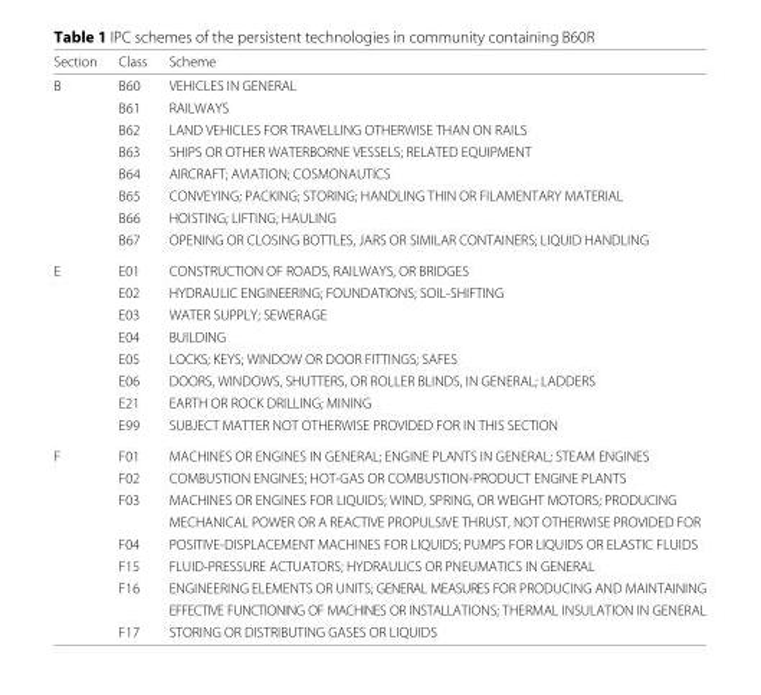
<table><thead><tr><td>Section</td><td>Class</td><td>Scheme</td></tr></thead><tbody><tr><td rowspan="8">B</td><td>B60</td><td>VEHICLES IN GENERAL</td></tr><tr><td>B61</td><td>RAILWAYS</td></tr><tr><td>B62</td><td>LAND VEHICLES FOR TRAVELLING OTHERWISE THAN ON RAILS</td></tr><tr><td>B63</td><td>SHIPS OR OTHER WATERBORNE VESSELS; RELATED EQUIPMENT</td></tr><tr><td>B64</td><td>AIRCRAFT; AVIATION; COSMONAUTICS</td></tr><tr><td>B65</td><td>CONVEYING; PACKING; STORING; HANDLING THIN OR FILAMENTARY MATERIAL</td></tr><tr><td>B66</td><td>HOISTING; LIFTING; HAULING</td></tr><tr><td>B67</td><td>OPENING OR CLOSING BOTTLES, JARS OR SIMILAR CONTAINERS; LIQUID HANDLING</td></tr><tr><td rowspan="8">E</td><td>E01</td><td>CONSTRUCTION OF ROADS, RAILWAYS, OR BRIDGES</td></tr><tr><td>E02</td><td>HYDRAULIC ENGINEERING; FOUNDATIONS; SOIL-SHIFTING</td></tr><tr><td>E03</td><td>WATER SUPPLY; SEWERAGE</td></tr><tr><td>E04</td><td>BUILDING</td></tr><tr><td>E05</td><td>LOCKS; KEYS; WINDOW OR DOOR FITTINGS; SAFES</td></tr><tr><td>E06</td><td>DOORS, WINDOWS, SHUTTERS, OR ROLLER BLINDS, IN GENERAL; LADDERS</td></tr><tr><td>E21</td><td>EARTH OR ROCK DRILLING; MINING</td></tr><tr><td>E99</td><td>SUBJECT MATTER NOT OTHERWISE PROVIDED FOR IN THIS SECTION</td></tr><tr><td rowspan="9">F</td><td>F01</td><td>MACHINES OR ENGINES IN GENERAL; ENGINE PLANTS IN GENERAL; STEAM ENGINES</td></tr><tr><td>F02</td><td>COMBUSTION ENGINES; HOT-GAS OR COMBUSTION-PRODUCT ENGINE PLANTS</td></tr><tr><td>F03</td><td>MACHINES OR ENGINES FOR LIQUIDS; WIND, SPRING, OR WEIGHT MOTORS; PRODUCING</td></tr><tr><td></td><td>MECHANICAL POWER OR A REACTIVE PROPULSIVE THRUST, NOT OTHERWISE PROVIDED FOR</td></tr><tr><td>F04</td><td>POSITIVE-DISPLACEMENT MACHINES FOR LIQUIDS; PUMPS FOR LIQUIDS OR ELASTIC FLUIDS</td></tr><tr><td>F15</td><td>FLUID-PRESSURE ACTUATORS; HYDRAULICS OR PNEUMATICS IN GENERAL</td></tr><tr><td>F16</td><td>ENGINEERING ELEMENTS OR UNITS; GENERAL MEASURES FOR PRODUCING AND MAINTAINING</td></tr><tr><td></td><td>EFFECTIVE FUNCTIONING OF MACHINES OR INSTALLATIONS; THERMAL INSULATION IN GENERAL</td></tr><tr><td>F17</td><td>STORING OR DISTRIBUTING GASES OR LIQUIDS</td></tr></tbody></table>